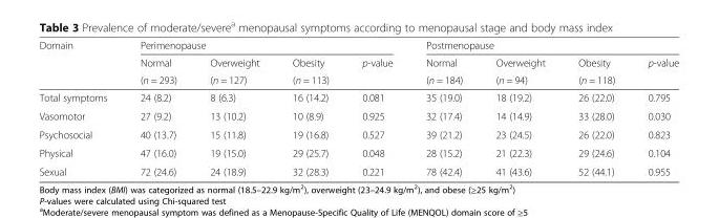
<table><thead><tr><td rowspan="3">Domain</td><td colspan="4">Perimenopause</td><td colspan="4">Postmenopause</td></tr><tr><td rowspan="2">Normal (n = 293)</td><td rowspan="2">Overweight (n = 127)</td><td rowspan="2">Obesity (n = 113)</td><td rowspan="2">p-value</td><td rowspan="2">Normal (n = 184)</td><td rowspan="2">Overweight (n = 94)</td><td rowspan="2">Obesity (n = 118)</td><td rowspan="2">p-value</td></tr><tr></tr></thead><tbody><tr><td>Total symptoms</td><td>24 (8.2)</td><td>8 (6.3)</td><td>16 (14.2)</td><td>0.081</td><td>35 (19.0)</td><td>18 (19.2)</td><td>26 (22.0)</td><td>0.795</td></tr><tr><td>Vasomotor</td><td>27 (9.2)</td><td>13 (10.2)</td><td>10 (8.9)</td><td>0.925</td><td>32 (17.4)</td><td>14 (14.9)</td><td>33 (28.0)</td><td>0.030</td></tr><tr><td>Psychosocial</td><td>40 (13.7)</td><td>15 (11.8)</td><td>19 (16.8)</td><td>0.527</td><td>39 (21.2)</td><td>23 (24.5)</td><td>26 (22.0)</td><td>0.823</td></tr><tr><td>Physical</td><td>47 (16.0)</td><td>19 (15.0)</td><td>29 (25.7)</td><td>0.048</td><td>28 (15.2)</td><td>21 (22.3)</td><td>29 (24.6)</td><td>0.104</td></tr><tr><td>Sexual</td><td>72 (24.6)</td><td>24 (18.9)</td><td>32 (28.3)</td><td>0.221</td><td>78 (42.4)</td><td>41 (43.6)</td><td>52 (44.1)</td><td>0.955</td></tr></tbody></table>